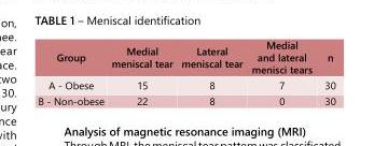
<table><tbody><tr><td>Group</td><td>Medial meniscal tear</td><td>Lateral meniscal tear</td><td>Medial and lateral menisci tears</td><td>n</td></tr><tr><td>A - Obese</td><td>15</td><td>8</td><td>7</td><td>30</td></tr><tr><td>B - Non-obese</td><td>22</td><td>8</td><td>0</td><td>30</td></tr></tbody></table>